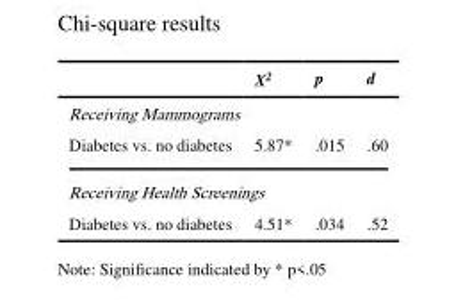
<table><thead><tr><td></td><td>X<sup>2</sup></td><td>p</td><td>d</td></tr></thead><tbody><tr><td colspan="4">Receiving Mammograms</td></tr><tr><td>Diabetes vs. no diabetes</td><td>5.87*</td><td>.015</td><td>.60</td></tr><tr><td colspan="4">Receiving Health Screenings</td></tr><tr><td>Diabetes vs. no diabetes</td><td>4.51*</td><td>.034</td><td>.52</td></tr></tbody></table>